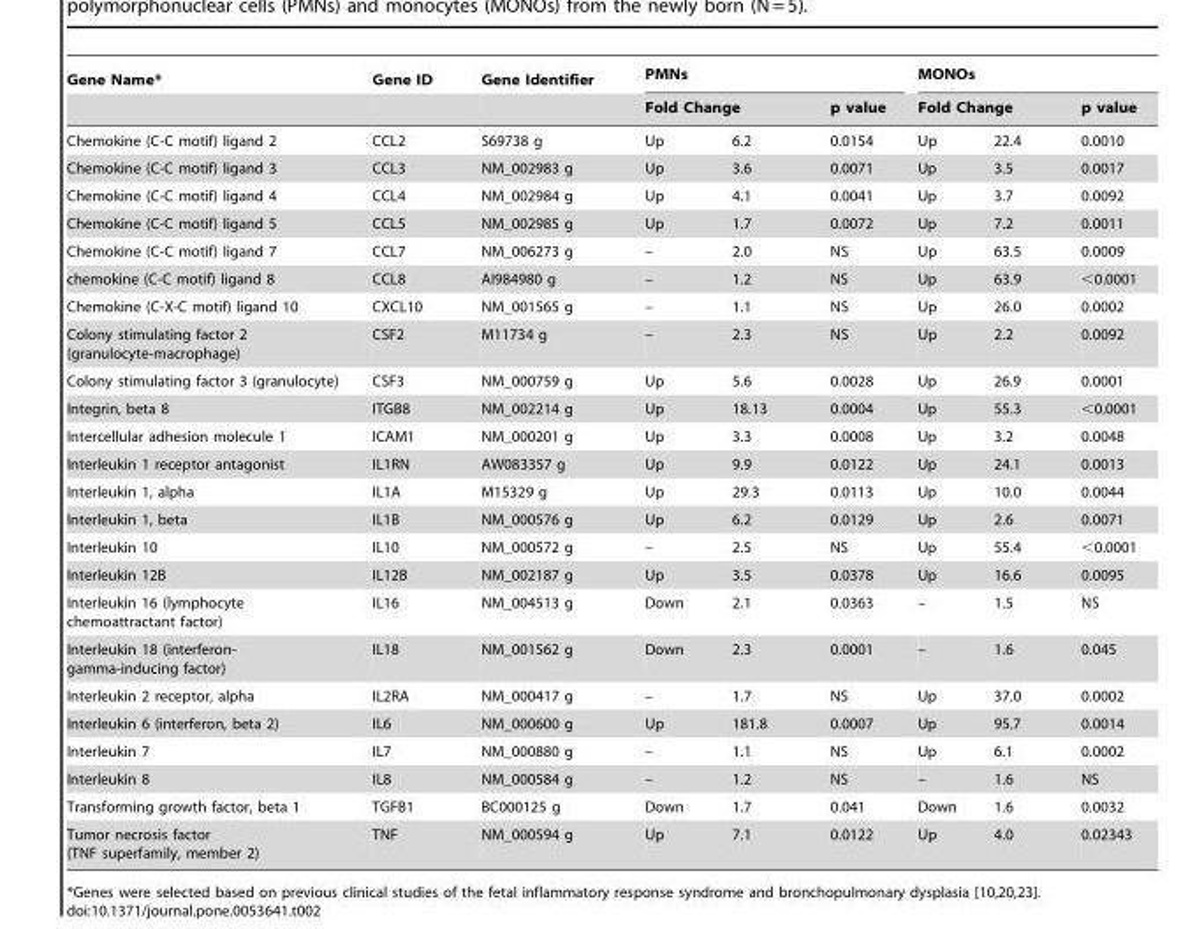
<table><thead><tr><td rowspan="3">Gene Name* Chemokine (C-C motif) ligand 2</td><td rowspan="3">Gene ID CCL2</td><td rowspan="3">Gene Identifier S69738 g</td><td colspan="3">PMNs</td><td colspan="3">MONOs</td></tr><tr><td colspan="2">Fold Change</td><td rowspan="2">p value 0.0154</td><td colspan="2">Fold Change</td><td rowspan="2">p value 0.0010</td></tr><tr><td>Up</td><td>6.2</td><td>Up</td><td>22.4</td></tr></thead><tbody><tr><td>Chemokine (C-C motif) ligand 3</td><td>CCL3</td><td>NM_002983 g</td><td>Up</td><td>3.6</td><td>0.0071</td><td>Up</td><td>3.5</td><td>0.0017</td></tr><tr><td>Chemokine (C-C motif) ligand 4</td><td>CCL4</td><td>NM_002984 g</td><td>Up</td><td>4.1</td><td>0.0041</td><td>Up</td><td>3.7</td><td>0.0092</td></tr><tr><td>Chemokine (C-C motif) ligand 5</td><td>CCL5</td><td>NM_002985 g</td><td>Up</td><td>1.7</td><td>0.0072</td><td>Up</td><td>7.2</td><td>0.0011</td></tr><tr><td>Chemokine (C-C motif) ligand 7</td><td>CCL7</td><td>NM_006273 g</td><td>–</td><td>2.0</td><td>NS</td><td>Up</td><td>63.5</td><td>0.0009</td></tr><tr><td>chemokine (C-C motif) ligand 8</td><td>CCL8</td><td>AI984980 g</td><td>–</td><td>1.2</td><td>NS</td><td>Up</td><td>63.9</td><td>&lt;0.0001</td></tr><tr><td>Chemokine (C-X-C motif) ligand 10</td><td>CXCL10</td><td>NM_001565 g</td><td>–</td><td>1.1</td><td>NS</td><td>Up</td><td>26.0</td><td>0.0002</td></tr><tr><td>Colony stimulating factor 2 (granulocyte-macrophage)</td><td>CSF2</td><td>M11734 g</td><td>–</td><td>2.3</td><td>NS</td><td>Up</td><td>2.2</td><td>0.0092</td></tr><tr><td>Colony stimulating factor 3 (granulocyte)</td><td>CSF3</td><td>NM_000759 g</td><td>Up</td><td>5.6</td><td>0.0028</td><td>Up</td><td>26.9</td><td>0.0001</td></tr><tr><td>Integrin, beta 8</td><td>ITGB8</td><td>NM_002214 g</td><td>Up</td><td>18.13</td><td>0.0004</td><td>Up</td><td>55.3</td><td>&lt;0.0001</td></tr><tr><td>Intercellular adhesion molecule 1</td><td>ICAM1</td><td>NM_000201 g</td><td>Up</td><td>3.3</td><td>0.0008</td><td>Up</td><td>3.2</td><td>0.0048</td></tr><tr><td>Interleukin 1 receptor antagonist</td><td>IL1RN</td><td>AW083357 g</td><td>Up</td><td>9.9</td><td>0.0122</td><td>Up</td><td>24.1</td><td>0.0013</td></tr><tr><td>Interleukin 1, alpha</td><td>IL1A</td><td>M15329 g</td><td>Up</td><td>29.3</td><td>0.0113</td><td>Up</td><td>10.0</td><td>0.0044</td></tr><tr><td>Interleukin 1, beta</td><td>IL1B</td><td>NM_000576 g</td><td>Up</td><td>6.2</td><td>0.0129</td><td>Up</td><td>2.6</td><td>0.0071</td></tr><tr><td>Interleukin 10</td><td>IL10</td><td>NM_000572 g</td><td>–</td><td>2.5</td><td>NS</td><td>Up</td><td>55.4</td><td>&lt;0.0001</td></tr><tr><td>Interleukin 12B</td><td>IL12B</td><td>NM_002187 g</td><td>Up</td><td>3.5</td><td>0.0378</td><td>Up</td><td>16.6</td><td>0.0095</td></tr><tr><td>Interleukin 16 (lymphocyte chemoattractant factor)</td><td>IL16</td><td>NM_004513 g</td><td>Down</td><td>2.1</td><td>0.0363</td><td>–</td><td>1.5</td><td>NS</td></tr><tr><td>Interleukin 18 (interferon- gamma-inducing factor)</td><td>IL18</td><td>NM_001562 g</td><td>Down</td><td>2.3</td><td>0.0001</td><td>–</td><td>1.6</td><td>0.045</td></tr><tr><td>Interleukin 2 receptor, alpha</td><td>IL2RA</td><td>NM_000417 g</td><td>–</td><td>1.7</td><td>NS</td><td>Up</td><td>37.0</td><td>0.0002</td></tr><tr><td>Interleukin 6 (interferon, beta 2)</td><td>IL6</td><td>NM_000600 g</td><td>Up</td><td>181.8</td><td>0.0007</td><td>Up</td><td>95.7</td><td>0.0014</td></tr><tr><td>Interleukin 7</td><td>IL7</td><td>NM_000880 g</td><td>–</td><td>1.1</td><td>NS</td><td>Up</td><td>6.1</td><td>0.0002</td></tr><tr><td>Interleukin 8</td><td>IL8</td><td>NM_000584 g</td><td>–</td><td>1.2</td><td>NS</td><td>–</td><td>1.6</td><td>NS</td></tr><tr><td>Transforming growth factor, beta 1</td><td>TGFB1</td><td>BC000125 g</td><td>Down</td><td>1.7</td><td>0.041</td><td>Down</td><td>1.6</td><td>0.0032</td></tr><tr><td>Tumor necrosis factor (TNF superfamily, member 2)</td><td>TNF</td><td>NM_000594 g</td><td>Up</td><td>7.1</td><td>0.0122</td><td>Up</td><td>4.0</td><td>0.02343</td></tr></tbody></table>